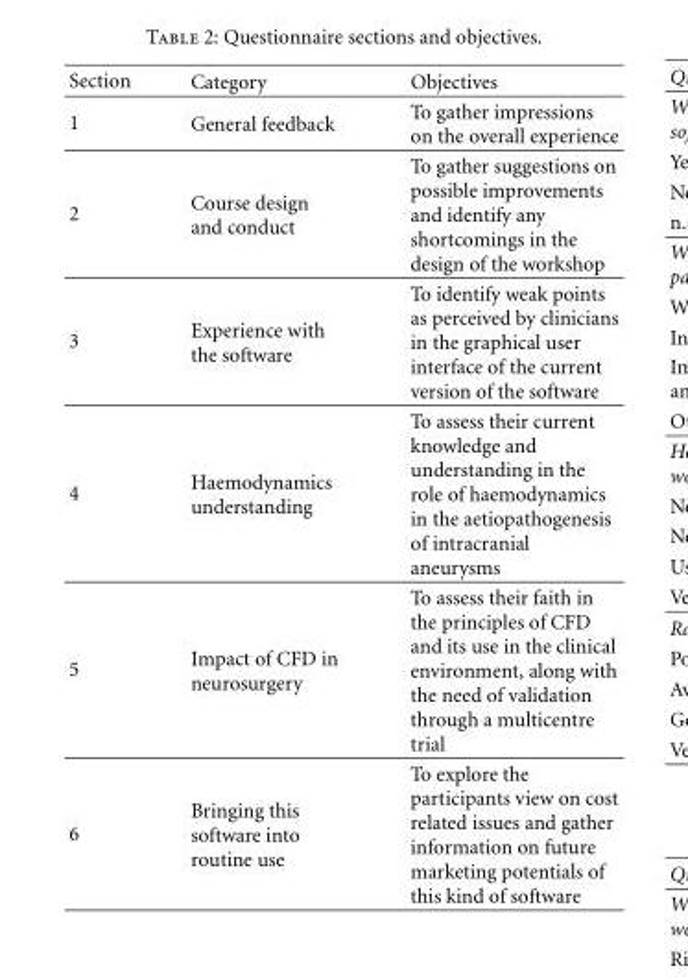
<table><thead><tr><td>Section</td><td>Category</td><td>Objectives</td></tr></thead><tbody><tr><td>1</td><td>General feedback</td><td>To gather impressions on the overall experience</td></tr><tr><td>2</td><td>Course design and conduct</td><td>To gather suggestions on possible improvements and identify any shortcomings in the design of the workshop</td></tr><tr><td>3</td><td>Experience with the software</td><td>To identify weak points as perceived by clinicians in the graphical user interface of the current version of the software</td></tr><tr><td>4</td><td>Haemodynamics understanding</td><td>To assess their current knowledge and understanding in the role of haemodynamics in the aetiopathogenesis of intracranial aneurysms</td></tr><tr><td>5</td><td>Impact of CFD in neurosurgery</td><td>To assess their faith in the principles of CFD and its use in the clinical environment, along with the need of validation through a multicentre trial</td></tr><tr><td>6</td><td>Bringing this software into routine use</td><td>To explore the participants view on cost related issues and gather information on future marketing potentials of this kind of software</td></tr></tbody></table>